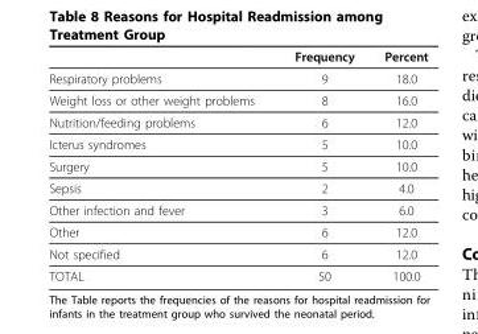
<table><thead><tr><td></td><td>Frequency</td><td>Percent</td></tr></thead><tbody><tr><td>Respiratory problems</td><td>9</td><td>18.0</td></tr><tr><td>Weight loss or other weight problems</td><td>8</td><td>16.0</td></tr><tr><td>Nutrition/feeding problems</td><td>6</td><td>12.0</td></tr><tr><td>Icterus syndromes</td><td>5</td><td>10.0</td></tr><tr><td>Surgery</td><td>5</td><td>10.0</td></tr><tr><td>Sepsis</td><td>2</td><td>4.0</td></tr><tr><td>Other infection and fever</td><td>3</td><td>6.0</td></tr><tr><td>Other</td><td>6</td><td>12.0</td></tr><tr><td>Not specified</td><td>6</td><td>12.0</td></tr><tr><td>TOTAL</td><td>50</td><td>100.0</td></tr></tbody></table>